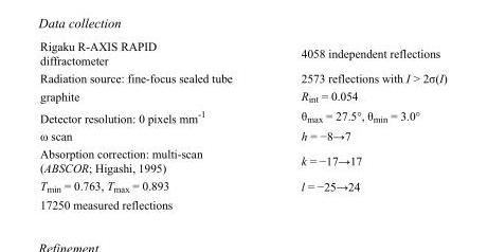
<table><tbody><tr><td>Rigaku R-AXIS RAPID diffractometer</td><td>4058 independent reflections</td></tr><tr><td>Radiation source: fine-focus sealed tube</td><td>2573 reflections with I &gt; 2σ(I)</td></tr><tr><td>graphite</td><td>R<sub>int</sub> = 0.054</td></tr><tr><td>Detector resolution: 0 pixels mm<sup>-1</sup></td><td>θ<sub>max</sub> = 27.5°, θ<sub>min</sub> = 3.0°</td></tr><tr><td>ω scan</td><td>h = −8→7</td></tr><tr><td>Absorption correction: multi-scan (ABSCOR; Higashi, 1995)</td><td>k = −17→17</td></tr><tr><td>T<sub>min</sub> = 0.763, T<sub>max</sub> = 0.893</td><td>l = −25→24</td></tr><tr><td>17250 measured reflections</td><td></td></tr></tbody></table>